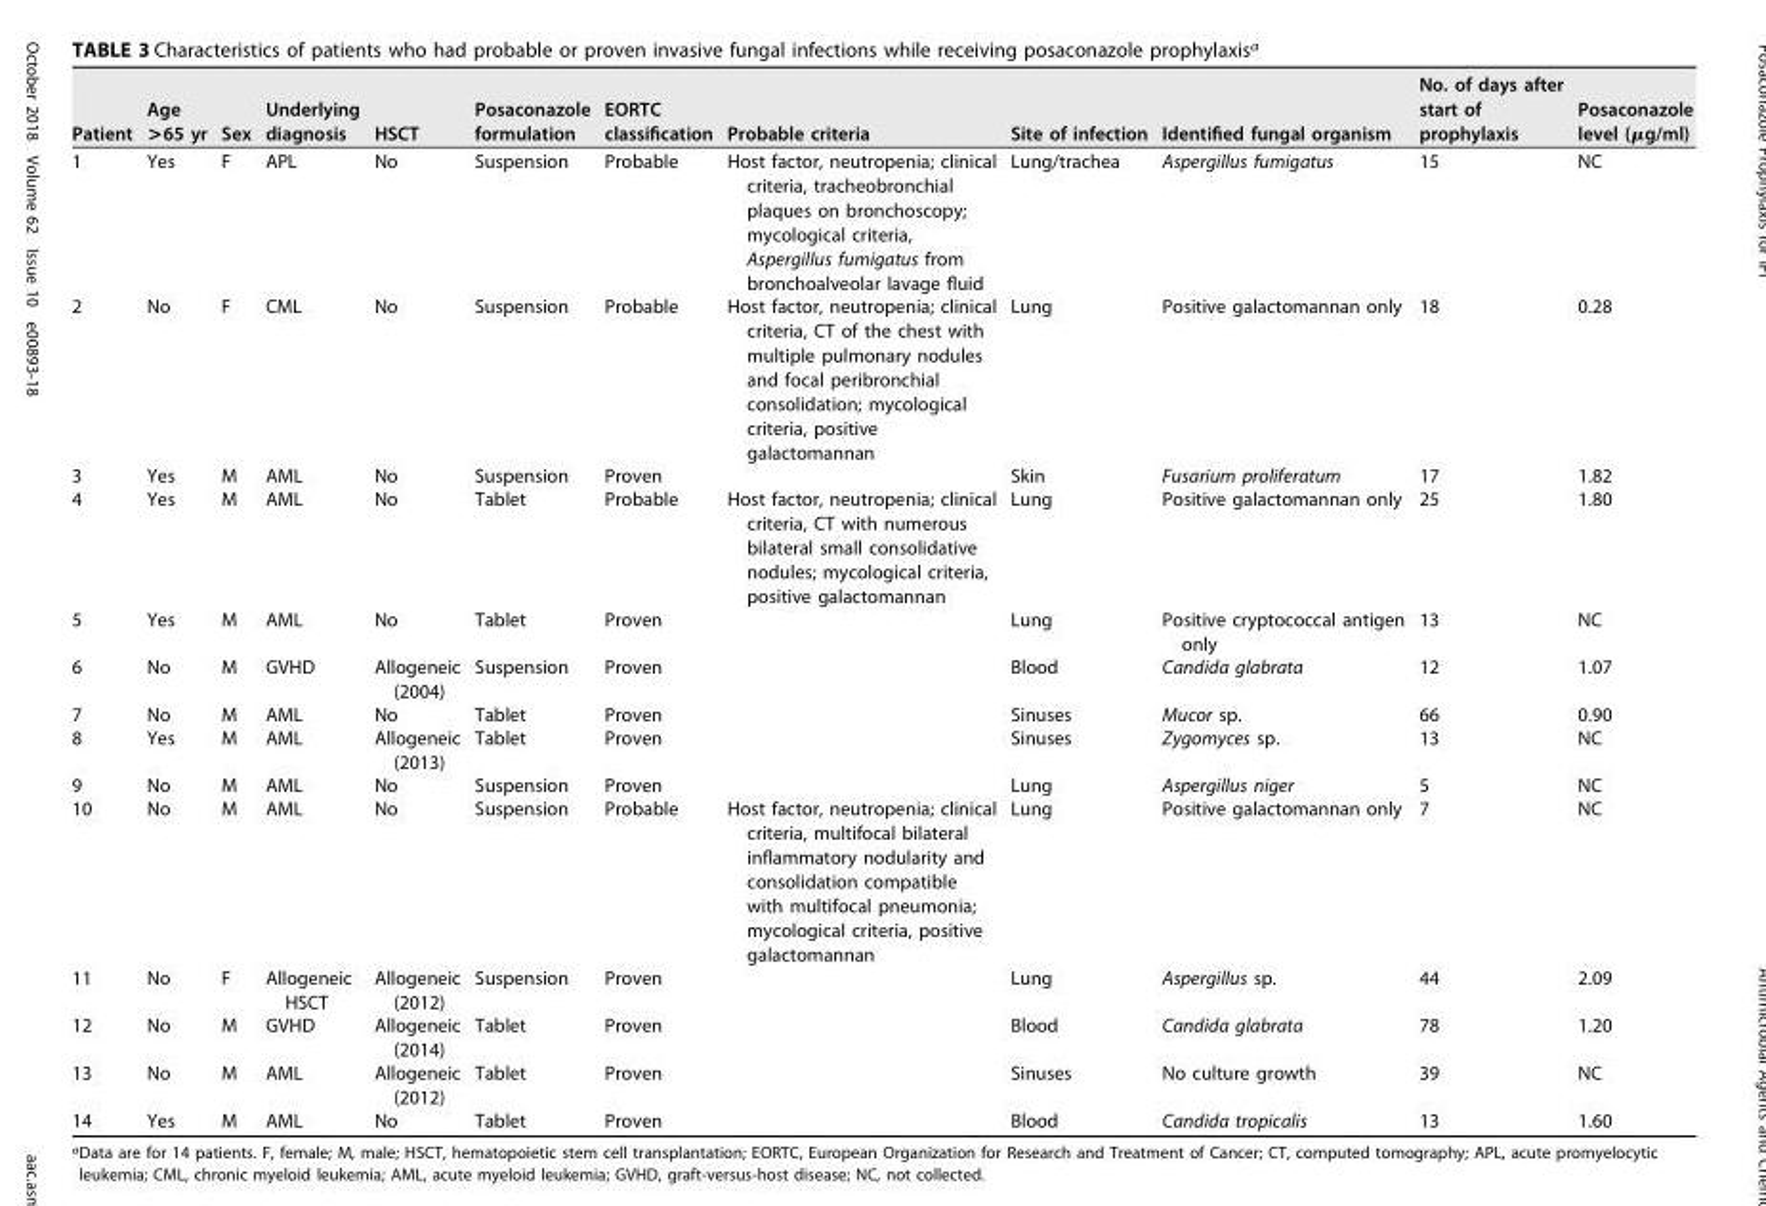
<table><thead><tr><td>Patient</td><td>Age &gt;65 yr</td><td>Sex</td><td>Underlying diagnosis</td><td>HSCT</td><td>Posaconazole formulation</td><td>EORTC classification</td><td>Probable criteria</td><td>Site of infection</td><td>Identified fungal organism</td><td>No. of days after start of prophylaxis</td><td>Posaconazole level (μg/ml)</td></tr></thead><tbody><tr><td>1</td><td>Yes</td><td>F</td><td>APL</td><td>No</td><td>Suspension</td><td>Probable</td><td>Host factor, neutropenia; clinical criteria, tracheobronchial plaques on bronchoscopy; mycological criteria, Aspergillus fumigatus from bronchoalveolar lavage fluid</td><td>Lung/trachea</td><td>Aspergillus fumigatus</td><td>15</td><td>NC</td></tr><tr><td>2</td><td>No</td><td>F</td><td>CML</td><td>No</td><td>Suspension</td><td>Probable</td><td>Host factor, neutropenia; clinical criteria, CT of the chest with multiple pulmonary nodules and focal peribronchial consolidation; mycological criteria, positive galactomannan</td><td>Lung</td><td>Positive galactomannan only</td><td>18</td><td>0.28</td></tr><tr><td>3</td><td>Yes</td><td>M</td><td>AML</td><td>No</td><td>Suspension</td><td>Proven</td><td></td><td>Skin</td><td>Fusarium proliferatum</td><td>17</td><td>1.82</td></tr><tr><td>4</td><td>Yes</td><td>M</td><td>AML</td><td>No</td><td>Tablet</td><td>Probable</td><td>Host factor, neutropenia; clinical criteria, CT with numerous bilateral small consolidative nodules; mycological criteria, positive galactomannan</td><td>Lung</td><td>Positive galactomannan only</td><td>25</td><td>1.80</td></tr><tr><td>5</td><td>Yes</td><td>M</td><td>AML</td><td>No</td><td>Tablet</td><td>Proven</td><td></td><td>Lung</td><td>Positive cryptococcal antigen only</td><td>13</td><td>NC</td></tr><tr><td>6</td><td>No</td><td>M</td><td>GVHD</td><td>Allogeneic (2004)</td><td>Suspension</td><td>Proven</td><td></td><td>Blood</td><td>Candida glabrata</td><td>12</td><td>1.07</td></tr><tr><td>7</td><td>No</td><td>M</td><td>AML</td><td>No</td><td>Tablet</td><td>Proven</td><td></td><td>Sinuses</td><td>Mucor sp.</td><td>66</td><td>0.90</td></tr><tr><td>8</td><td>Yes</td><td>M</td><td>AML</td><td>Allogeneic (2013)</td><td>Tablet</td><td>Proven</td><td></td><td>Sinuses</td><td>Zygomyces sp.</td><td>13</td><td>NC</td></tr><tr><td>9</td><td>No</td><td>M</td><td>AML</td><td>No</td><td>Suspension</td><td>Proven</td><td></td><td>Lung</td><td>Aspergillus niger</td><td>5</td><td>NC</td></tr><tr><td>10</td><td>No</td><td>M</td><td>AML</td><td>No</td><td>Suspension</td><td>Probable</td><td>Host factor, neutropenia; clinical criteria, multifocal bilateral inflammatory nodularity and consolidation compatible with multifocal pneumonia; mycological criteria, positive galactomannan</td><td>Lung</td><td>Positive galactomannan only</td><td>7</td><td>NC</td></tr><tr><td>11</td><td>No</td><td>F</td><td>Allogeneic HSCT</td><td>Allogeneic (2012)</td><td>Suspension</td><td>Proven</td><td></td><td>Lung</td><td>Aspergillus sp.</td><td>44</td><td>2.09</td></tr><tr><td>12</td><td>No</td><td>M</td><td>GVHD</td><td>Allogeneic (2014)</td><td>Tablet</td><td>Proven</td><td></td><td>Blood</td><td>Candida glabrata</td><td>78</td><td>1.20</td></tr><tr><td>13</td><td>No</td><td>M</td><td>AML</td><td>Allogeneic (2012)</td><td>Tablet</td><td>Proven</td><td></td><td>Sinuses</td><td>No culture growth</td><td>39</td><td>NC</td></tr><tr><td>14</td><td>Yes</td><td>M</td><td>AML</td><td>No</td><td>Tablet</td><td>Proven</td><td></td><td>Blood</td><td>Candida tropicalis</td><td>13</td><td>1.60</td></tr></tbody></table>